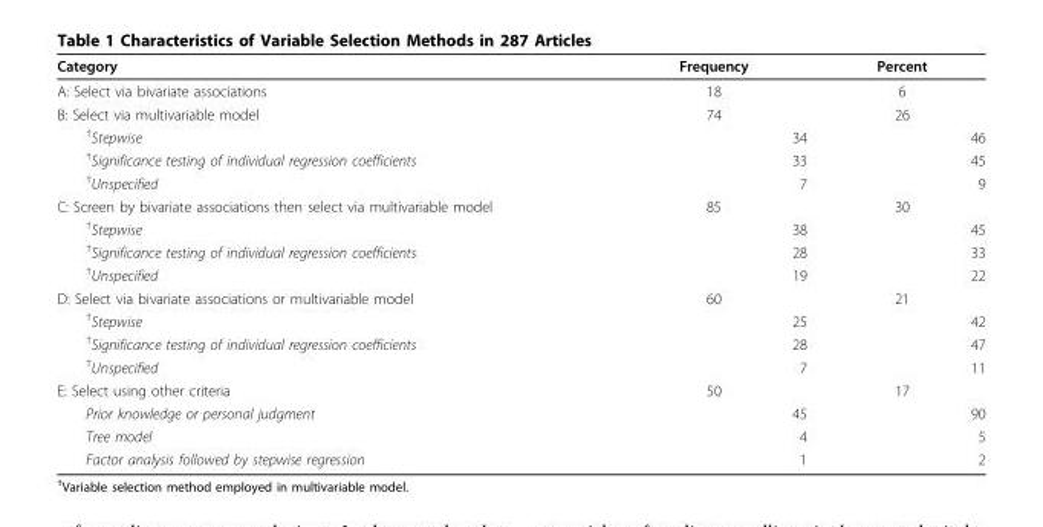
<table><thead><tr><td>Category</td><td>Frequency</td><td>Percent</td></tr></thead><tbody><tr><td>A: Select via bivariate associations</td><td>18</td><td>6</td></tr><tr><td>B: Select via multivariable model</td><td>74</td><td>26</td></tr><tr><td><sup>†</sup>Stepwise</td><td>34</td><td>46</td></tr><tr><td><sup>†</sup>Significance testing of individual regression coefficients</td><td>33</td><td>45</td></tr><tr><td><sup>†</sup>Unspecified</td><td>7</td><td>9</td></tr><tr><td>C: Screen by bivariate associations then select via multivariable model</td><td>85</td><td>30</td></tr><tr><td><sup>†</sup>Stepwise</td><td>38</td><td>45</td></tr><tr><td><sup>†</sup>Significance testing of individual regression coefficients</td><td>28</td><td>33</td></tr><tr><td><sup>†</sup>Unspecified</td><td>19</td><td>22</td></tr><tr><td>D: Select via bivariate associations or multivariable model</td><td>60</td><td>21</td></tr><tr><td><sup>†</sup>Stepwise</td><td>25</td><td>42</td></tr><tr><td><sup>†</sup>Significance testing of individual regression coefficients</td><td>28</td><td>47</td></tr><tr><td><sup>†</sup>Unspecified</td><td>7</td><td>11</td></tr><tr><td>E: Select using other criteria</td><td>50</td><td>17</td></tr><tr><td>Prior knowledge or personal judgment</td><td>45</td><td>90</td></tr><tr><td>Tree model</td><td>4</td><td>5</td></tr><tr><td>Factor analysis followed by stepwise regression</td><td>1</td><td>2</td></tr></tbody></table>